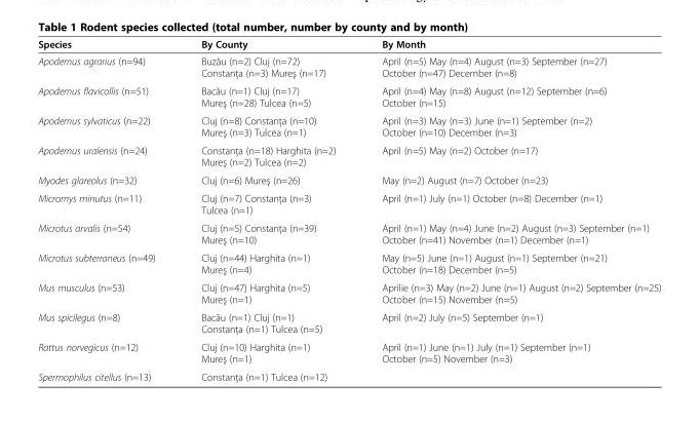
<table><thead><tr><td>Species</td><td>By County</td><td>By Month</td></tr></thead><tbody><tr><td>Apodemus agrarius (n=94)</td><td>Buzău (n=2) Cluj (n=72) Constanţa (n=3) Mureş (n=17)</td><td>April (n=5) May (n=4) August (n=3) September (n=27) October (n=47) December (n=8)</td></tr><tr><td>Apodemus flavicollis (n=51)</td><td>Bacău (n=1) Cluj (n=17) Mureş (n=28) Tulcea (n=5)</td><td>April (n=4) May (n=8) August (n=12) September (n=6) October (n=15)</td></tr><tr><td>Apodemus sylvaticus (n=22)</td><td>Cluj (n=8) Constanţa (n=10) Mureş (n=3) Tulcea (n=1)</td><td>April (n=3) May (n=3) June (n=1) September (n=2) October (n=10) December (n=3)</td></tr><tr><td>Apodemus uralensis (n=24)</td><td>Constanţa (n=18) Harghita (n=2) Mureş (n=2) Tulcea (n=2)</td><td>April (n=5) May (n=2) October (n=17)</td></tr><tr><td>Myodes glareolus (n=32)</td><td>Cluj (n=6) Mureş (n=26)</td><td>May (n=2) August (n=7) October (n=23)</td></tr><tr><td>Micromys minutus (n=11)</td><td>Cluj (n=7) Constanţa (n=3) Tulcea (n=1)</td><td>April (n=1) July (n=1) October (n=8) December (n=1)</td></tr><tr><td>Microtus arvalis (n=54)</td><td>Cluj (n=5) Constanţa (n=39) Mureş (n=10)</td><td>April (n=1) May (n=4) June (n=2) August (n=3) September (n=1) October (n=41) November (n=1) December (n=1)</td></tr><tr><td>Microtus subterraneus (n=49)</td><td>Cluj (n=44) Harghita (n=1) Mureş (n=4)</td><td>May (n=5) June (n=1) August (n=1) September (n=21) October (n=18) December (n=5)</td></tr><tr><td>Mus musculus (n=53)</td><td>Cluj (n=47) Harghita (n=5) Mureş (n=1)</td><td>Aprilie (n=3) May (n=2) June (n=1) August (n=2) September (n=25) October (n=15) November (n=5)</td></tr><tr><td>Mus spicilegus (n=8)</td><td>Bacău (n=1) Cluj (n=1) Constanţa (n=1) Tulcea (n=5)</td><td>April (n=2) July (n=5) September (n=1)</td></tr><tr><td>Rattus norvegicus (n=12)</td><td>Cluj (n=10) Harghita (n=1) Mureş (n=1)</td><td>April (n=1) June (n=1) July (n=1) September (n=1) October (n=5) November (n=3)</td></tr><tr><td>Spermophilus citellus (n=13)</td><td>Constanţa (n=1) Tulcea (n=12)</td><td></td></tr></tbody></table>